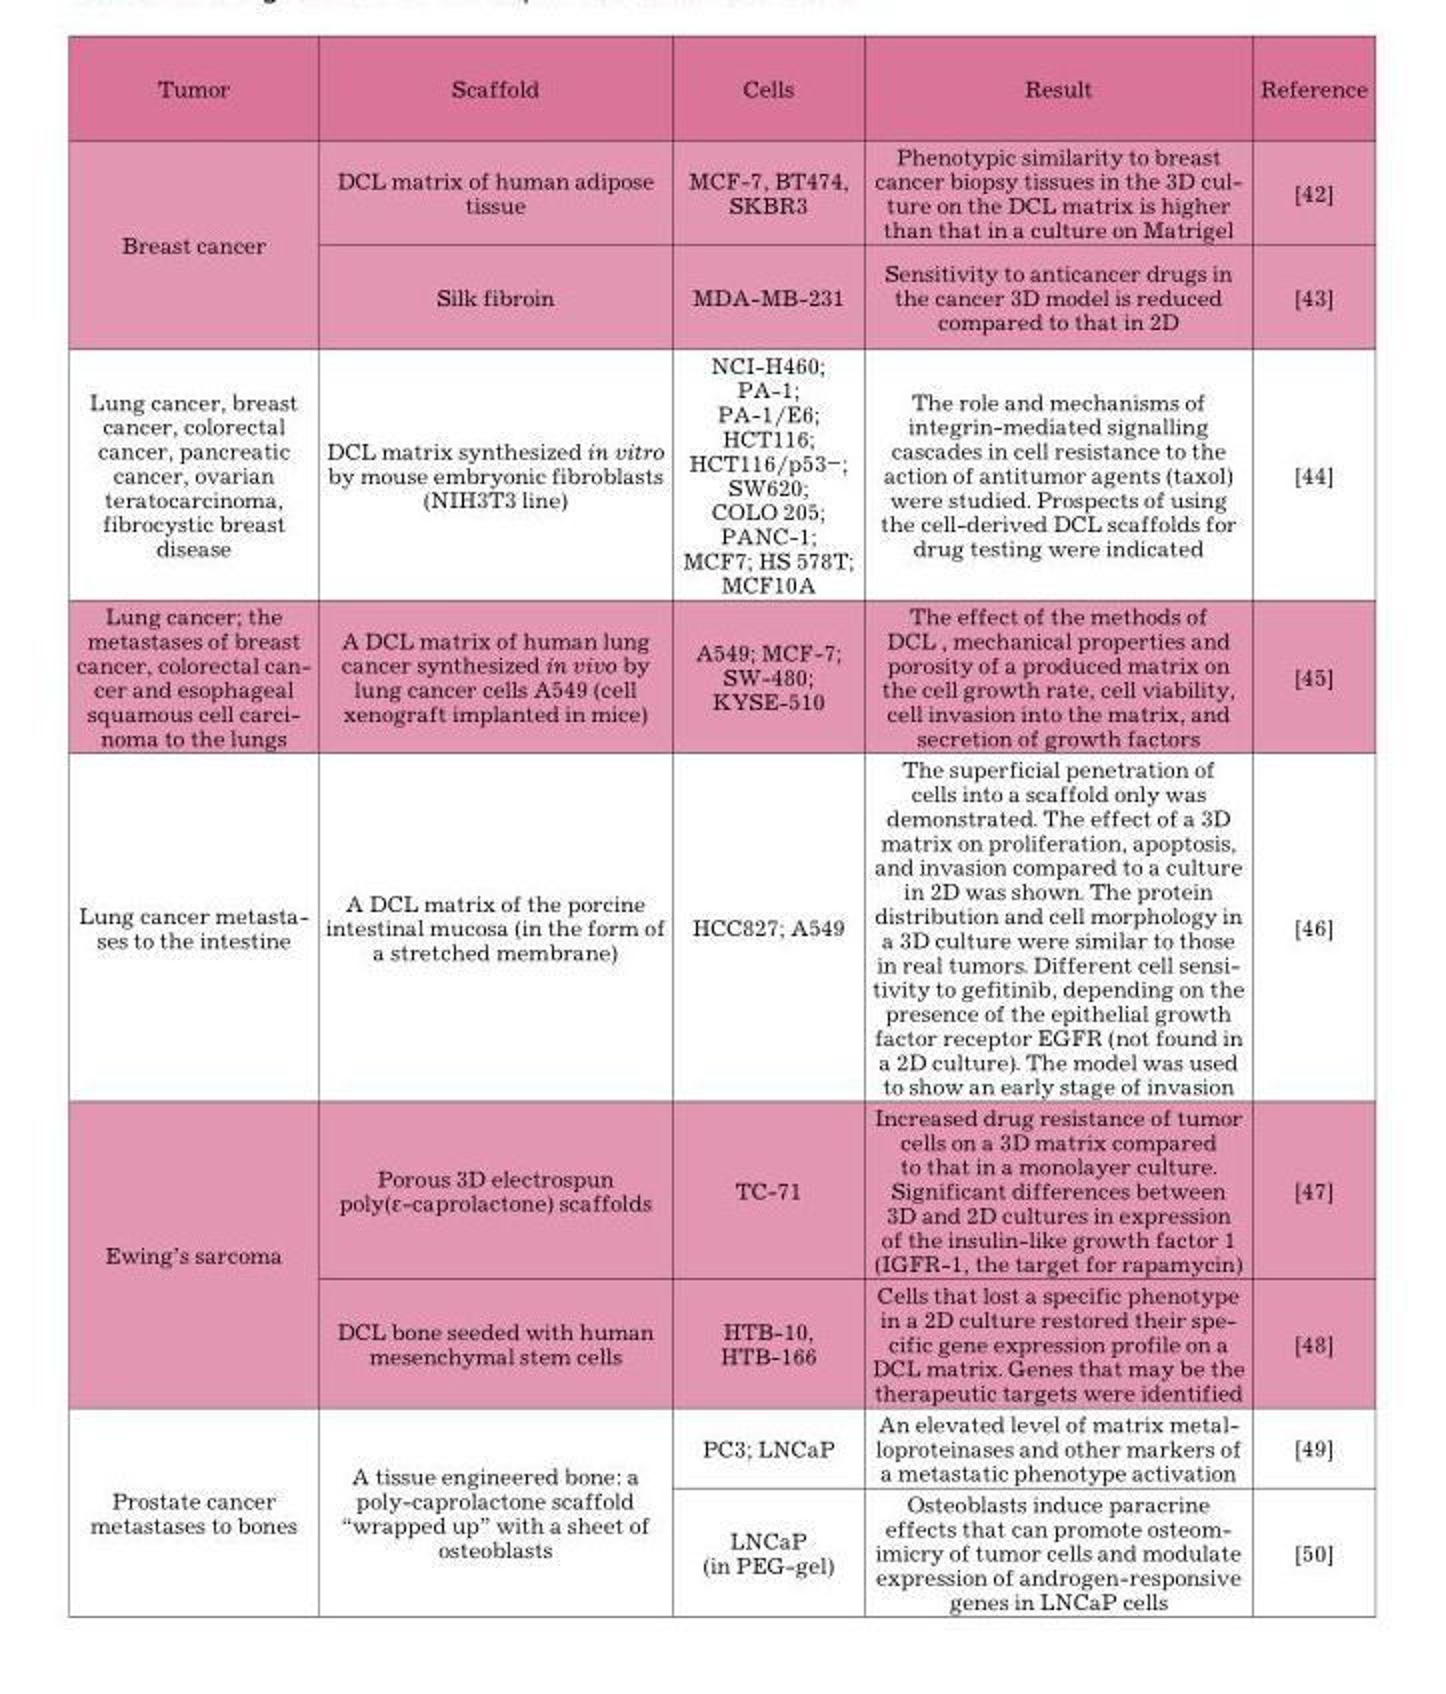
<table><thead><tr><td>Tumor</td><td>Scaffold</td><td>Cells</td><td>Result</td><td>Reference</td></tr></thead><tbody><tr><td rowspan="2">Breast cancer</td><td>DCL matrix of human adipose tissue</td><td>MCF-7, BT474, SKBR3</td><td>Phenotypic similarity to breast cancer biopsy tissues in the 3D cul- ture on the DCL matrix is higher than that in a culture on Matrigel</td><td>[42]</td></tr><tr><td>Silk fibroin</td><td>MDA-MB-231</td><td>Sensitivity to anticancer drugs in the cancer 3D model is reduced compared to that in 2D</td><td>[43]</td></tr><tr><td>Lung cancer, breast cancer, colorectal cancer, pancreatic cancer, ovarian teratocarcinoma, fibrocystic breast disease</td><td>DCL matrix synthesized in vitro by mouse embryonic fibroblasts (NIH3T3 line)</td><td>NCI-H460; PA-1; PA-1/E6; HCT116; HCT116/p53–; SW620; COLO 205; PANC-1; MCF7; HS 578T; MCF10A</td><td>The role and mechanisms of integrin-mediated signalling cascades in cell resistance to the action of antitumor agents (taxol) were studied. Prospects of using the cell-derived DCL scaffolds for drug testing were indicated</td><td>[44]</td></tr><tr><td>Lung cancer; the metastases of breast cancer, colorectal can- cer and esophageal squamous cell carci- noma to the lungs</td><td>A DCL matrix of human lung cancer synthesized in vivo by lung cancer cells A549 (cell xenograft implanted in mice)</td><td>A549; MCF-7; SW-480; KYSE-510</td><td>The effect of the methods of DCL , mechanical properties and porosity of a produced matrix on the cell growth rate, cell viability, cell invasion into the matrix, and secretion of growth factors</td><td>[45]</td></tr><tr><td>Lung cancer metasta- ses to the intestine</td><td>A DCL matrix of the porcine intestinal mucosa (in the form of a stretched membrane)</td><td>HCC827; A549</td><td>The superficial penetration of cells into a scaffold only was demonstrated. The effect of a 3D matrix on proliferation, apoptosis, and invasion compared to a culture in 2D was shown. The protein distribution and cell morphology in a 3D culture were similar to those in real tumors. Different cell sensi- tivity to gefitinib, depending on the presence of the epithelial growth factor receptor EGFR (not found in a 2D culture). The model was used to show an early stage of invasion</td><td>[46]</td></tr><tr><td rowspan="2">Ewing’s sarcoma</td><td>Porous 3D electrospun poly(ε-caprolactone) scaffolds</td><td>TC-71</td><td>Increased drug resistance of tumor cells on a 3D matrix compared to that in a monolayer culture. Significant differences between 3D and 2D cultures in expression of the insulin-like growth factor 1 (IGFR-1, the target for rapamycin)</td><td>[47]</td></tr><tr><td>DCL bone seeded with human mesenchymal stem cells</td><td>HTB-10, HTB-166</td><td>Cells that lost a specific phenotype in a 2D culture restored their spe- cific gene expression profile on a DCL matrix. Genes that may be the therapeutic targets were identified</td><td>[48]</td></tr><tr><td rowspan="2">Prostate cancer metastases to bones</td><td rowspan="2">A tissue engineered bone: a poly-caprolactone scaffold “wrapped up” with a sheet of osteoblasts</td><td>PC3; LNCaP</td><td>An elevated level of matrix metal- loproteinases and other markers of a metastatic phenotype activation</td><td>[49]</td></tr><tr><td>LNCaP (in PEG-gel)</td><td>Osteoblasts induce paracrine effects that can promote osteom- imicry of tumor cells and modulate expression of androgen-responsive genes in LNCaP cells</td><td>[50]</td></tr></tbody></table>